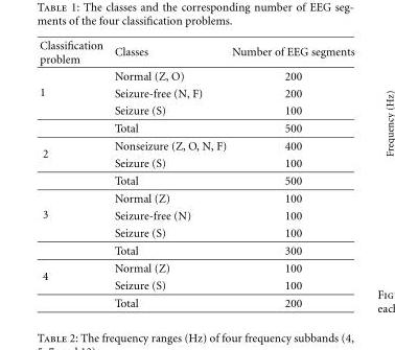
<table><thead><tr><td>Classification problem</td><td>Classes</td><td>Number of EEG segments</td></tr></thead><tbody><tr><td rowspan="4">1</td><td>Normal (Z, O)</td><td>200</td></tr><tr><td>Seizure-free (N, F)</td><td>200</td></tr><tr><td>Seizure (S)</td><td>100</td></tr><tr><td>Total</td><td>500</td></tr><tr><td rowspan="3">2</td><td>Nonseizure (Z, O, N, F)</td><td>400</td></tr><tr><td>Seizure (S)</td><td>100</td></tr><tr><td>Total</td><td>500</td></tr><tr><td rowspan="4">3</td><td>Normal (Z)</td><td>100</td></tr><tr><td>Seizure-free (N)</td><td>100</td></tr><tr><td>Seizure (S)</td><td>100</td></tr><tr><td>Total</td><td>300</td></tr><tr><td rowspan="3">4</td><td>Normal (Z)</td><td>100</td></tr><tr><td>Seizure (S)</td><td>100</td></tr><tr><td>Total</td><td>200</td></tr></tbody></table>